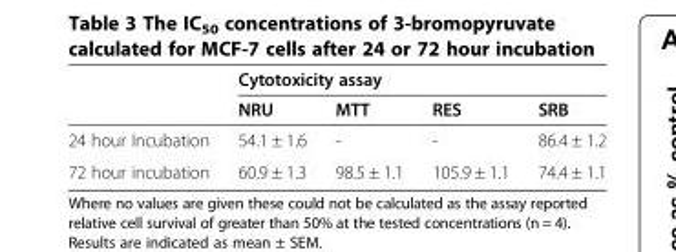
<table><thead><tr><td rowspan="2"></td><td colspan="4">Cytotoxicity assay</td></tr><tr><td>NRU</td><td>MTT</td><td>RES</td><td>SRB</td></tr></thead><tbody><tr><td>24 hour Incubation</td><td>54.1 ± 1.6</td><td>-</td><td>-</td><td>86.4 ± 1.2</td></tr><tr><td>72 hour incubation</td><td>60.9 ± 1.3</td><td>98.5 ± 1.1</td><td>105.9 ± 1.1</td><td>74.4 ± 1.1</td></tr></tbody></table>